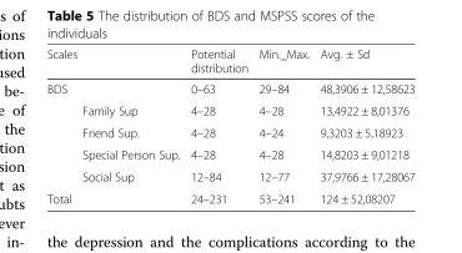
<table><thead><tr><td colspan="2">Scales</td><td rowspan="2">Potential distribution 0–63</td><td rowspan="2">Min._Max. 29–84</td><td rowspan="2">Avg. ± Sd 48,3906 ± 12,58623</td></tr><tr><td>BDS</td><td></td></tr></thead><tbody><tr><td rowspan="4"></td><td>Family Sup</td><td>4–28</td><td>4–28</td><td>13,4922 ± 8,01376</td></tr><tr><td>Friend Sup.</td><td>4–28</td><td>4–24</td><td>9,3203 ± 5,18923</td></tr><tr><td>Special Person Sup.</td><td>4–28</td><td>4–28</td><td>14,8203 ± 9,01218</td></tr><tr><td>Social Sup</td><td>12–84</td><td>12–77</td><td>37,9766 ± 17,28067</td></tr><tr><td>Total</td><td></td><td>24–231</td><td>53–241</td><td>124 ± 52,08207</td></tr></tbody></table>